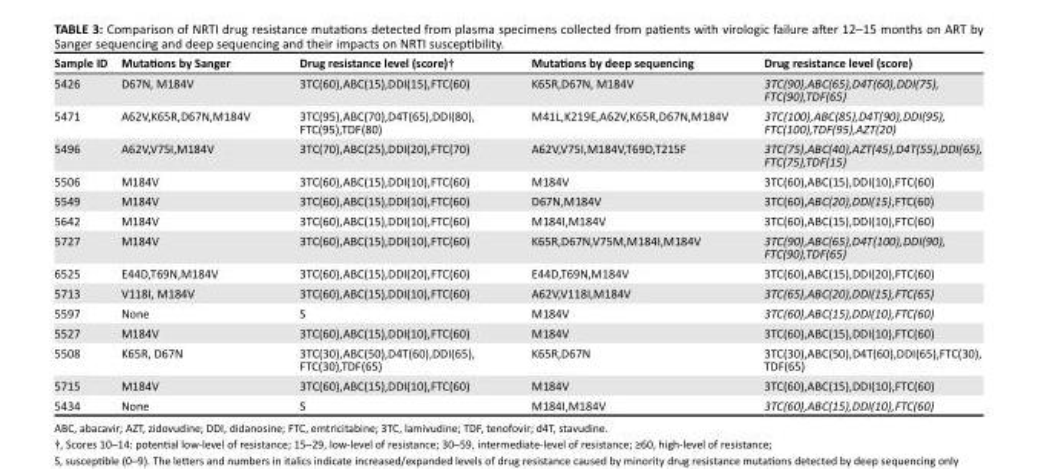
<table><thead><tr><td>Sample ID</td><td>Mutations by Sanger</td><td>Drug resistance level (score)†</td><td>Mutations by deep sequencing</td><td>Drug resistance level (score)</td></tr></thead><tbody><tr><td>5426</td><td>D67N, M184V</td><td>3TC(60),ABC(15),DDI(15),FTC(60)</td><td>K65R,D67N, M184V</td><td>3TC(90),ABC(65),D4T(60),DDI(75), FTC(90),TDF(65)</td></tr><tr><td>5471</td><td>A62V,K65R,D67N,M184V</td><td>3TC(95),ABC(70),D4T(65),DDI(80), FTC(95),TDF(80)</td><td>M41L,K219E,A62V,K65R,D67N,M184V</td><td>3TC(100),ABC(85),D4T(90),DDI(95), FTC(100),TDF(95),AZT(20)</td></tr><tr><td>5496</td><td>A62V,V75I,M184V</td><td>3TC(70),ABC(25),DDI(20),FTC(70)</td><td>A62V,V75I,M184V,T69D,T215F</td><td>3TC(75),ABC(40),AZT(45),D4T(55),DDI(65), FTC(75),TDF(15)</td></tr><tr><td>5506</td><td>M184V</td><td>3TC(60),ABC(15),DDI(10),FTC(60)</td><td>M184V</td><td>3TC(60),ABC(15),DDI(10),FTC(60)</td></tr><tr><td>5549</td><td>M184V</td><td>3TC(60),ABC(15),DDI(10),FTC(60)</td><td>D67N,M184V</td><td>3TC(60),ABC(20),DDI(15),FTC(60)</td></tr><tr><td>5642</td><td>M184V</td><td>3TC(60),ABC(15),DDI(10),FTC(60)</td><td>M184I,M184V</td><td>3TC(60),ABC(15),DDI(10),FTC(60)</td></tr><tr><td>5727</td><td>M184V</td><td>3TC(60),ABC(15),DDI(10),FTC(60)</td><td>K65R,D67N,V75M,M184I,M184V</td><td>3TC(90),ABC(65),D4T(100),DDI(90), FTC(90),TDF(65)</td></tr><tr><td>6525</td><td>E44D,T69N,M184V</td><td>3TC(60),ABC(15),DDI(20),FTC(60)</td><td>E44D,T69N,M184V</td><td>3TC(60),ABC(15),DDI(20),FTC(60)</td></tr><tr><td>5713</td><td>V118I, M184V</td><td>3TC(60),ABC(15),DDI(10),FTC(60)</td><td>A62V,V118I,M184V</td><td>3TC(65),ABC(20),DDI(15),FTC(65)</td></tr><tr><td>5597</td><td>None</td><td>S</td><td>M184V</td><td>3TC(60),ABC(15),DDI(10),FTC(60)</td></tr><tr><td>5527</td><td>M184V</td><td>3TC(60),ABC(15),DDI(10),FTC(60)</td><td>M184V</td><td>3TC(60),ABC(15),DDI(10),FTC(60)</td></tr><tr><td>5508</td><td>K65R, D67N</td><td>3TC(30),ABC(50),D4T(60),DDI(65), FTC(30),TDF(65)</td><td>K65R,D67N</td><td>3TC(30),ABC(50),D4T(60),DDI(65),FTC(30), TDF(65)</td></tr><tr><td>5715</td><td>M184V</td><td>3TC(60),ABC(15),DDI(10),FTC(60)</td><td>M184V</td><td>3TC(60),ABC(15),DDI(10),FTC(60)</td></tr><tr><td>5434</td><td>None</td><td>S</td><td>M184I,M184V</td><td>3TC(60),ABC(15),DDI(10),FTC(60)</td></tr></tbody></table>